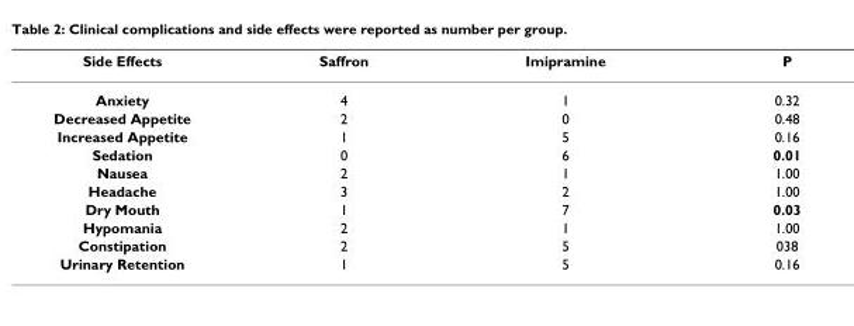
<table><thead><tr><td>Side Effects</td><td>Saffron</td><td>Imipramine</td><td>P</td></tr></thead><tbody><tr><td>Anxiety</td><td>4</td><td>1</td><td>0.32</td></tr><tr><td>Decreased Appetite</td><td>2</td><td>0</td><td>0.48</td></tr><tr><td>Increased Appetite</td><td>1</td><td>5</td><td>0.16</td></tr><tr><td>Sedation</td><td>0</td><td>6</td><td>0.01</td></tr><tr><td>Nausea</td><td>2</td><td>1</td><td>1.00</td></tr><tr><td>Headache</td><td>3</td><td>2</td><td>1.00</td></tr><tr><td>Dry Mouth</td><td>1</td><td>7</td><td>0.03</td></tr><tr><td>Hypomania</td><td>2</td><td>1</td><td>1.00</td></tr><tr><td>Constipation</td><td>2</td><td>5</td><td>038</td></tr><tr><td>Urinary Retention</td><td>1</td><td>5</td><td>0.16</td></tr></tbody></table>